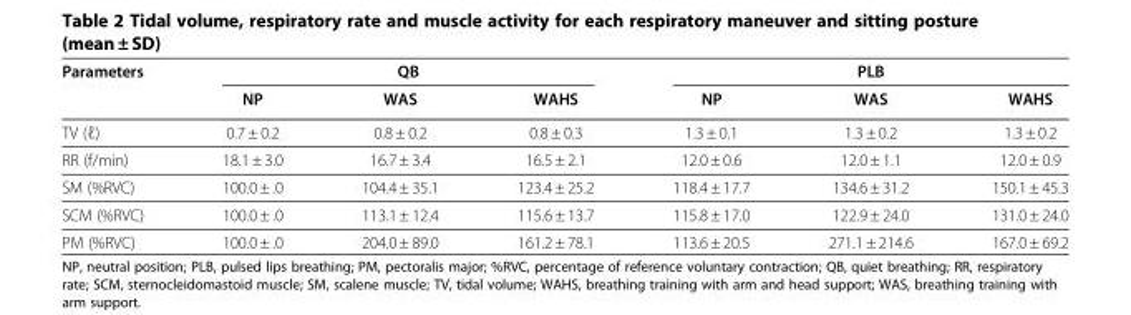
<table><thead><tr><td rowspan="2">Parameters</td><td colspan="3">QB</td><td colspan="3">PLB</td></tr><tr><td>NP</td><td>WAS</td><td>WAHS</td><td>NP</td><td>WAS</td><td>WAHS</td></tr></thead><tbody><tr><td>TV (ℓ)</td><td>0.7 ± 0.2</td><td>0.8 ± 0.2</td><td>0.8 ± 0.3</td><td>1.3 ± 0.1</td><td>1.3 ± 0.2</td><td>1.3 ± 0.2</td></tr><tr><td>RR (f/min)</td><td>18.1 ± 3.0</td><td>16.7 ± 3.4</td><td>16.5 ± 2.1</td><td>12.0 ± 0.6</td><td>12.0 ± 1.1</td><td>12.0 ± 0.9</td></tr><tr><td>SM (%RVC)</td><td>100.0 ± .0</td><td>104.4 ± 35.1</td><td>123.4 ± 25.2</td><td>118.4 ± 17.7</td><td>134.6 ± 31.2</td><td>150.1 ± 45.3</td></tr><tr><td>SCM (%RVC)</td><td>100.0 ± .0</td><td>113.1 ± 12.4</td><td>115.6 ± 13.7</td><td>115.8 ± 17.0</td><td>122.9 ± 24.0</td><td>131.0 ± 24.0</td></tr><tr><td>PM (%RVC)</td><td>100.0 ± .0</td><td>204.0 ± 89.0</td><td>161.2 ± 78.1</td><td>113.6 ± 20.5</td><td>271.1 ± 214.6</td><td>167.0 ± 69.2</td></tr></tbody></table>